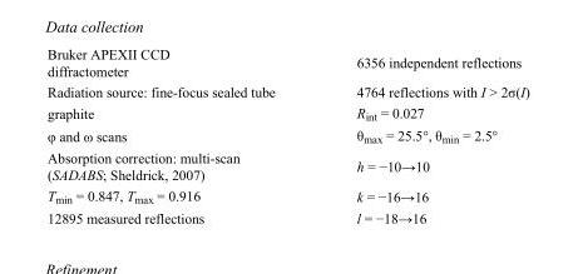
<table><tbody><tr><td>Bruker APEXII CCD diffractometer</td><td>6356 independent reflections</td></tr><tr><td>Radiation source: fine-focus sealed tube</td><td>4764 reflections with I &gt; 2σ(I)</td></tr><tr><td>graphite</td><td>R<sub>int</sub> = 0.027</td></tr><tr><td>φ and ω scans</td><td>θ<sub>max</sub> = 25.5°, θ<sub>min</sub> = 2.5°</td></tr><tr><td>Absorption correction: multi-scan (SADABS; Sheldrick, 2007)</td><td>h = −10→10</td></tr><tr><td>T<sub>min</sub> = 0.847, T<sub>max</sub> = 0.916</td><td>k = −16→16</td></tr><tr><td>12895 measured reflections</td><td>l = −18→16</td></tr></tbody></table>